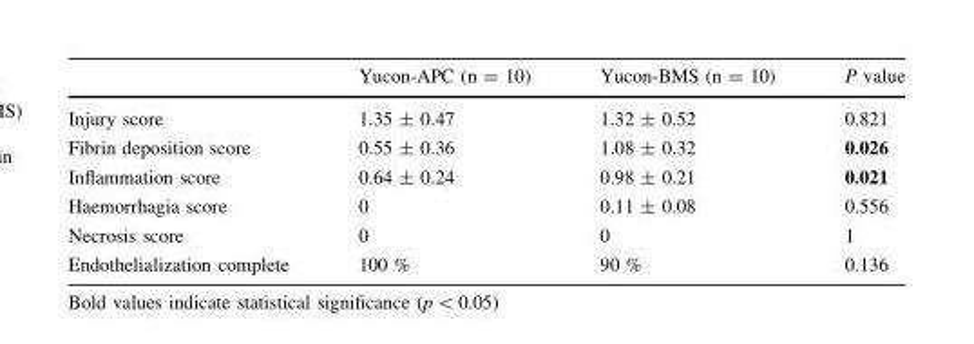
<table><thead><tr><td></td><td>Yucon-APC (n = 10)</td><td>Yucon-BMS (n = 10)</td><td>P value</td></tr></thead><tbody><tr><td>Injury score</td><td>1.35 ± 0.47</td><td>1.32 ± 0.52</td><td>0.821</td></tr><tr><td>Fibrin deposition score</td><td>0.55 ± 0.36</td><td>1.08 ± 0.32</td><td>0.026</td></tr><tr><td>Inflammation score</td><td>0.64 ± 0.24</td><td>0.98 ± 0.21</td><td>0.021</td></tr><tr><td>Haemorrhagia score</td><td>0</td><td>0.11 ± 0.08</td><td>0.556</td></tr><tr><td>Necrosis score</td><td>0</td><td>0</td><td>1</td></tr><tr><td>Endothelialization complete</td><td>100 %</td><td>90 %</td><td>0.136</td></tr></tbody></table>